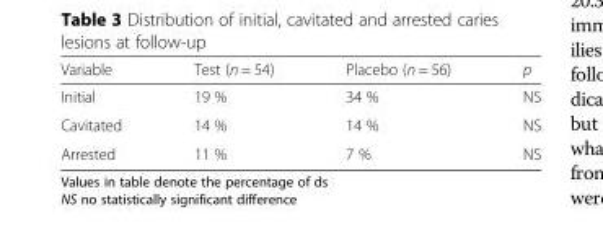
<table><thead><tr><td>Variable</td><td>Test (n = 54)</td><td>Placebo (n = 56)</td><td>p</td></tr></thead><tbody><tr><td>Initial</td><td>19 %</td><td>34 %</td><td>NS</td></tr><tr><td>Cavitated</td><td>14 %</td><td>14 %</td><td>NS</td></tr><tr><td>Arrested</td><td>11 %</td><td>7 %</td><td>NS</td></tr></tbody></table>